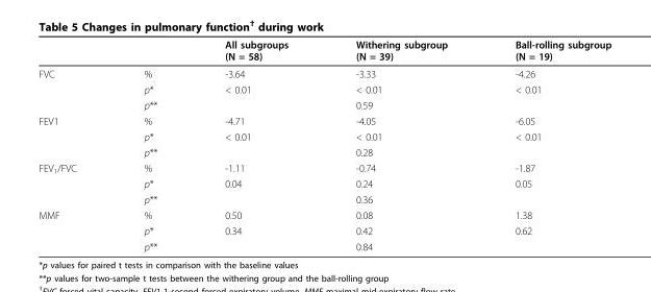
<table><thead><tr><td></td><td></td><td>All subgroups (N = 58)</td><td>Withering subgroup (N = 39)</td><td>Ball-rolling subgroup (N = 19)</td></tr></thead><tbody><tr><td rowspan="3">FVC</td><td>%</td><td>-3.64</td><td>-3.33</td><td>-4.26</td></tr><tr><td>p*</td><td>&lt; 0.01</td><td>&lt; 0.01</td><td>&lt; 0.01</td></tr><tr><td>p**</td><td></td><td>0.59</td><td></td></tr><tr><td rowspan="3">FEV1</td><td>%</td><td>-4.71</td><td>-4.05</td><td>-6.05</td></tr><tr><td>p*</td><td>&lt; 0.01</td><td>&lt; 0.01</td><td>&lt; 0.01</td></tr><tr><td>p**</td><td></td><td>0.28</td><td></td></tr><tr><td rowspan="3">FEV<sub>1</sub>/FVC</td><td>%</td><td>-1.11</td><td>-0.74</td><td>-1.87</td></tr><tr><td>p*</td><td>0.04</td><td>0.24</td><td>0.05</td></tr><tr><td>p**</td><td></td><td>0.36</td><td></td></tr><tr><td rowspan="3">MMF</td><td>%</td><td>0.50</td><td>0.08</td><td>1.38</td></tr><tr><td>p*</td><td>0.34</td><td>0.42</td><td>0.62</td></tr><tr><td>p**</td><td></td><td>0.84</td><td></td></tr></tbody></table>